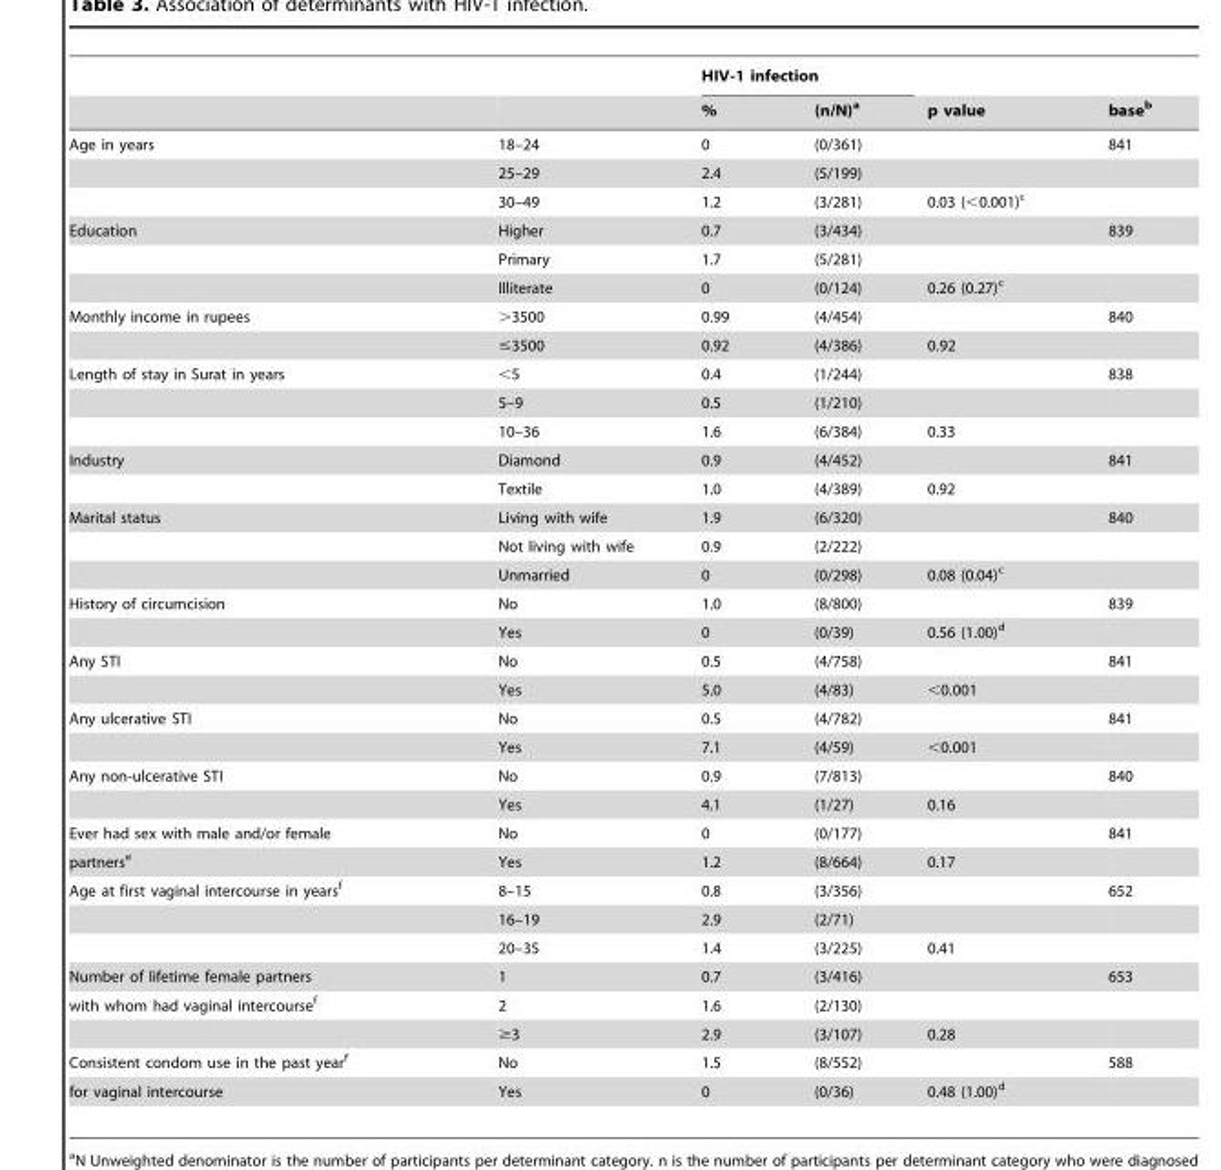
<table><thead><tr><td rowspan="2"></td><td rowspan="2"></td><td colspan="2">HIV-1 infection</td><td rowspan="2">p value</td><td rowspan="2">base<sup>b</sup></td></tr><tr><td>%</td><td>(n/N)<sup>a</sup></td></tr></thead><tbody><tr><td rowspan="3">Age in years</td><td>18–24</td><td>0</td><td>(0/361)</td><td></td><td>841</td></tr><tr><td>25–29</td><td>2.4</td><td>(5/199)</td><td></td><td></td></tr><tr><td>30–49</td><td>1.2</td><td>(3/281)</td><td>0.03 (&lt;0.001)<sup>c</sup></td><td></td></tr><tr><td rowspan="3">Education</td><td>Higher</td><td>0.7</td><td>(3/434)</td><td></td><td>839</td></tr><tr><td>Primary</td><td>1.7</td><td>(5/281)</td><td></td><td></td></tr><tr><td>Illiterate</td><td>0</td><td>(0/124)</td><td>0.26 (0.27)<sup>c</sup></td><td></td></tr><tr><td rowspan="2">Monthly income in rupees</td><td>&gt;3500</td><td>0.99</td><td>(4/454)</td><td></td><td>840</td></tr><tr><td>≤3500</td><td>0.92</td><td>(4/386)</td><td>0.92</td><td></td></tr><tr><td rowspan="3">Length of stay in Surat in years</td><td>&lt;5</td><td>0.4</td><td>(1/244)</td><td></td><td>838</td></tr><tr><td>5–9</td><td>0.5</td><td>(1/210)</td><td></td><td></td></tr><tr><td>10–36</td><td>1.6</td><td>(6/384)</td><td>0.33</td><td></td></tr><tr><td rowspan="2">Industry</td><td>Diamond</td><td>0.9</td><td>(4/452)</td><td></td><td>841</td></tr><tr><td>Textile</td><td>1.0</td><td>(4/389)</td><td>0.92</td><td></td></tr><tr><td rowspan="3">Marital status</td><td>Living with wife</td><td>1.9</td><td>(6/320)</td><td></td><td>840</td></tr><tr><td>Not living with wife</td><td>0.9</td><td>(2/222)</td><td></td><td></td></tr><tr><td>Unmarried</td><td>0</td><td>(0/298)</td><td>0.08 (0.04)<sup>c</sup></td><td></td></tr><tr><td rowspan="2">History of circumcision</td><td>No</td><td>1.0</td><td>(8/800)</td><td></td><td>839</td></tr><tr><td>Yes</td><td>0</td><td>(0/39)</td><td>0.56 (1.00)<sup>d</sup></td><td></td></tr><tr><td rowspan="2">Any STI</td><td>No</td><td>0.5</td><td>(4/758)</td><td></td><td>841</td></tr><tr><td>Yes</td><td>5.0</td><td>(4/83)</td><td>&lt;0.001</td><td></td></tr><tr><td rowspan="2">Any ulcerative STI</td><td>No</td><td>0.5</td><td>(4/782)</td><td></td><td>841</td></tr><tr><td>Yes</td><td>7.1</td><td>(4/59)</td><td>&lt;0.001</td><td></td></tr><tr><td rowspan="2">Any non-ulcerative STI</td><td>No</td><td>0.9</td><td>(7/813)</td><td></td><td>840</td></tr><tr><td>Yes</td><td>4.1</td><td>(1/27)</td><td>0.16</td><td></td></tr><tr><td>Ever had sex with male and/or female</td><td>No</td><td>0</td><td>(0/177)</td><td></td><td>841</td></tr><tr><td>partners<sup>e</sup></td><td>Yes</td><td>1.2</td><td>(8/664)</td><td>0.17</td><td></td></tr><tr><td rowspan="3">Age at first vaginal intercourse in years<sup>f</sup></td><td>8–15</td><td>0.8</td><td>(3/356)</td><td></td><td>652</td></tr><tr><td>16–19</td><td>2.9</td><td>(2/71)</td><td></td><td></td></tr><tr><td>20–35</td><td>1.4</td><td>(3/225)</td><td>0.41</td><td></td></tr><tr><td>Number of lifetime female partners</td><td>1</td><td>0.7</td><td>(3/416)</td><td></td><td>653</td></tr><tr><td rowspan="2">with whom had vaginal intercourse<sup>f</sup></td><td>2</td><td>1.6</td><td>(2/130)</td><td></td><td></td></tr><tr><td>≥3</td><td>2.9</td><td>(3/107)</td><td>0.28</td><td></td></tr><tr><td>Consistent condom use in the past year<sup>f</sup></td><td>No</td><td>1.5</td><td>(8/552)</td><td></td><td>588</td></tr><tr><td>for vaginal intercourse</td><td>Yes</td><td>0</td><td>(0/36)</td><td>0.48 (1.00)<sup>d</sup></td><td></td></tr></tbody></table>